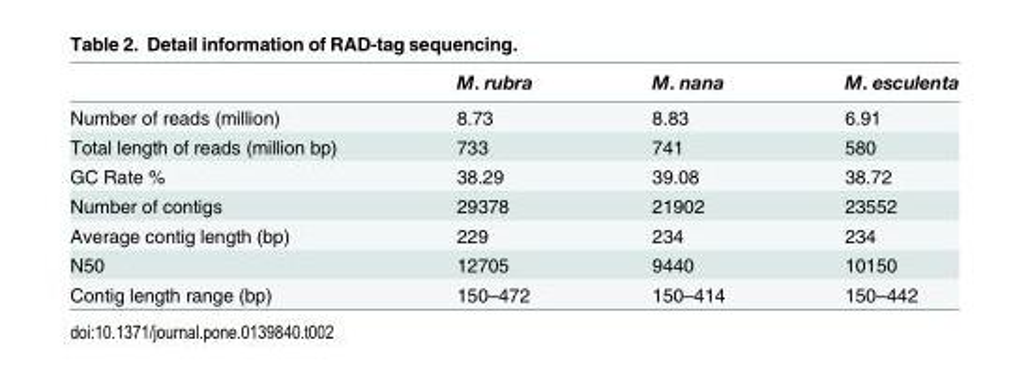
<table><thead><tr><td></td><td>M. rubra</td><td>M. nana</td><td>M. esculenta</td></tr></thead><tbody><tr><td>Number of reads (million)</td><td>8.73</td><td>8.83</td><td>6.91</td></tr><tr><td>Total length of reads (million bp)</td><td>733</td><td>741</td><td>580</td></tr><tr><td>GC Rate %</td><td>38.29</td><td>39.08</td><td>38.72</td></tr><tr><td>Number of contigs</td><td>29378</td><td>21902</td><td>23552</td></tr><tr><td>Average contig length (bp)</td><td>229</td><td>234</td><td>234</td></tr><tr><td>N50</td><td>12705</td><td>9440</td><td>10150</td></tr><tr><td>Contig length range (bp)</td><td>150–472</td><td>150–414</td><td>150–442</td></tr></tbody></table>